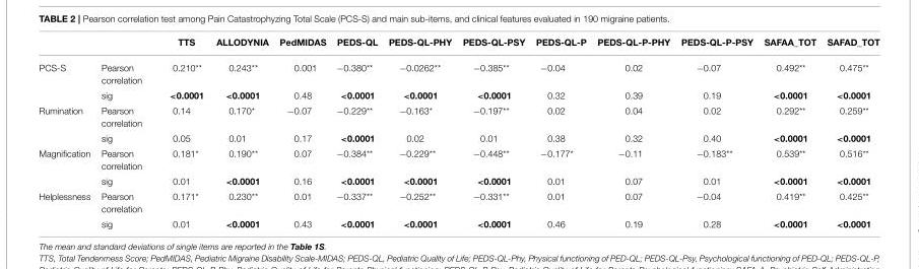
<table><thead><tr><td></td><td></td><td>TTS</td><td>ALLODYNIA</td><td>PedMIDAS</td><td>PEDS-QL</td><td>PEDS-QL-PHY</td><td>PEDS-QL-PSY</td><td>PEDS-QL-P</td><td>PEDS-QL-P-PHY</td><td>PEDS-QL-P-PSY</td><td>SAFAA_TOT</td><td>SAFAD_TOT</td></tr></thead><tbody><tr><td rowspan="2">PCS-S</td><td>Pearson correlation</td><td>0.210**</td><td>0.243**</td><td>0.001</td><td>−0.380**</td><td>−0.0262**</td><td>−0.385**</td><td>−0.04</td><td>0.02</td><td>−0.07</td><td>0.492**</td><td>0.475**</td></tr><tr><td>sig</td><td>&lt;0.0001</td><td>&lt;0.0001</td><td>0.48</td><td>&lt;0.0001</td><td>&lt;0.0001</td><td>&lt;0.0001</td><td>0.32</td><td>0.39</td><td>0.19</td><td>&lt;0.0001</td><td>&lt;0.0001</td></tr><tr><td rowspan="2">Rumination</td><td>Pearson correlation</td><td>0.14</td><td>0.170*</td><td>−0.07</td><td>−0.229**</td><td>−0.163*</td><td>−0.197**</td><td>0.02</td><td>0.04</td><td>0.02</td><td>0.292**</td><td>0.259**</td></tr><tr><td>sig</td><td>0.05</td><td>0.01</td><td>0.17</td><td>&lt;0.0001</td><td>0.02</td><td>0.01</td><td>0.38</td><td>0.32</td><td>0.40</td><td>&lt;0.0001</td><td>&lt;0.0001</td></tr><tr><td rowspan="2">Magnification</td><td>Pearson correlation</td><td>0.181*</td><td>0.190**</td><td>0.07</td><td>−0.384**</td><td>−0.229**</td><td>−0.448**</td><td>−0.177*</td><td>−0.11</td><td>−0.183**</td><td>0.539**</td><td>0.516**</td></tr><tr><td>sig</td><td>0.01</td><td>&lt;0.0001</td><td>0.16</td><td>&lt;0.0001</td><td>&lt;0.0001</td><td>&lt;0.0001</td><td>0.01</td><td>0.07</td><td>0.01</td><td>&lt;0.0001</td><td>&lt;0.0001</td></tr><tr><td rowspan="2">Helplessness</td><td>Pearson correlation</td><td>0.171*</td><td>0.230**</td><td>0.01</td><td>−0.337**</td><td>−0.252**</td><td>−0.331**</td><td>0.01</td><td>0.07</td><td>−0.04</td><td>0.419**</td><td>0.425**</td></tr><tr><td>sig</td><td>0.01</td><td>&lt;0.0001</td><td>0.43</td><td>&lt;0.0001</td><td>&lt;0.0001</td><td>&lt;0.0001</td><td>0.46</td><td>0.19</td><td>0.28</td><td>&lt;0.0001</td><td>&lt;0.0001</td></tr></tbody></table>